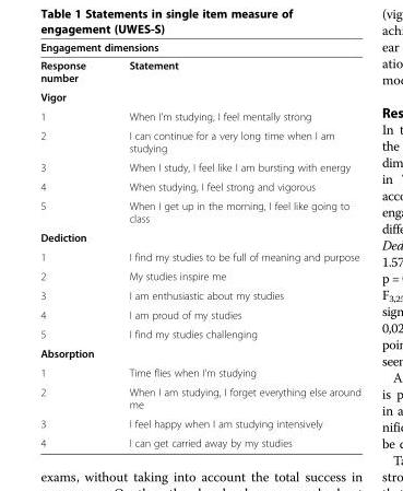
<table><thead><tr><td colspan="2">Engagement dimensions</td></tr><tr><td>Response number</td><td>Statement</td></tr></thead><tbody><tr><td colspan="2">Vigor</td></tr><tr><td>1</td><td>When I’m studying, I feel mentally strong</td></tr><tr><td>2</td><td>I can continue for a very long time when I am studying</td></tr><tr><td>3</td><td>When I study, I feel like I am bursting with energy</td></tr><tr><td>4</td><td>When studying, I feel strong and vigorous</td></tr><tr><td>5</td><td>When I get up in the morning, I feel like going to class</td></tr><tr><td colspan="2">Dediction</td></tr><tr><td>1</td><td>I find my studies to be full of meaning and purpose</td></tr><tr><td>2</td><td>My studies inspire me</td></tr><tr><td>3</td><td>I am enthusiastic about my studies</td></tr><tr><td>4</td><td>I am proud of my studies</td></tr><tr><td>5</td><td>I find my studies challenging</td></tr><tr><td colspan="2">Absorption</td></tr><tr><td>1</td><td>Time flies when I’m studying</td></tr><tr><td>2</td><td>When I am studying, I forget everything else around me</td></tr><tr><td>3</td><td>I feel happy when I am studying intensively</td></tr><tr><td>4</td><td>I can get carried away by my studies</td></tr></tbody></table>